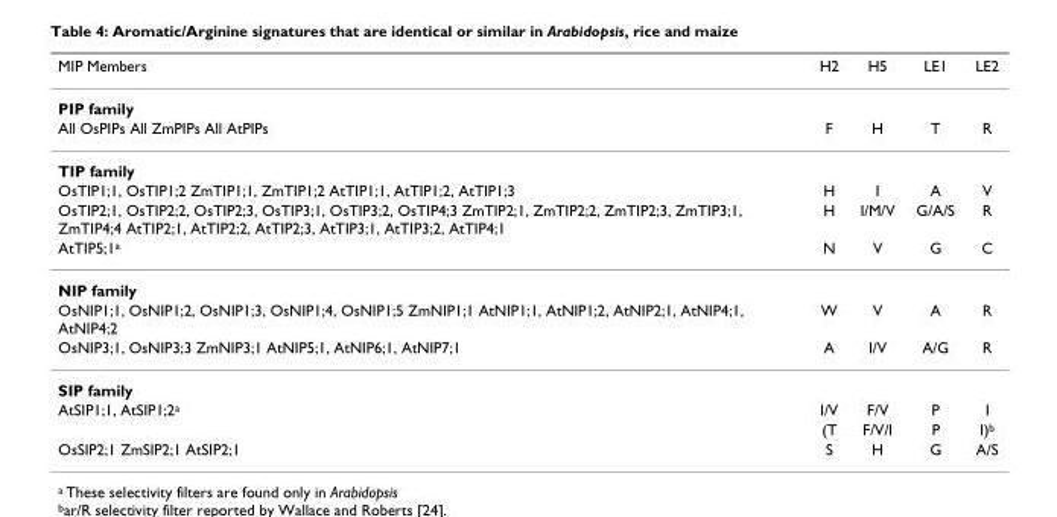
<table><thead><tr><td>MIP Members</td><td>H2</td><td>H5</td><td>LE1</td><td>LE2</td></tr></thead><tbody><tr><td colspan="5">PIP family</td></tr><tr><td>All OsPIPs All ZmPIPs All AtPIPs</td><td>F</td><td>H</td><td>T</td><td>R</td></tr><tr><td colspan="5">TIP family</td></tr><tr><td>OsTIP1;1, OsTIP1;2 ZmTIP1;1, ZmTIP1;2 AtTIP1;1, AtTIP1;2, AtTIP1;3</td><td>H</td><td>I</td><td>A</td><td>V</td></tr><tr><td>OsTIP2;1, OsTIP2;2, OsTIP2;3, OsTIP3;1, OsTIP3;2, OsTIP4;3 ZmTIP2;1, ZmTIP2;2, ZmTIP2;3, ZmTIP3;1, ZmTIP4;4 AtTIP2;1, AtTIP2;2, AtTIP2;3, AtTIP3;1, AtTIP3;2, AtTIP4;1</td><td>H</td><td>I/M/V</td><td>G/A/S</td><td>R</td></tr><tr><td>AtTIP5;1a</td><td>N</td><td>V</td><td>G</td><td>C</td></tr><tr><td colspan="5">NIP family</td></tr><tr><td>OsNIP1;1, OsNIP1;2, OsNIP1;3, OsNIP1;4, OsNIP1;5 ZmNIP1;1 AtNIP1;1, AtNIP1;2, AtNIP2;1, AtNIP4;1, AtNIP4;2</td><td>W</td><td>V</td><td>A</td><td>R</td></tr><tr><td>OsNIP3;1, OsNIP3;3 ZmNIP3;1 AtNIP5;1, AtNIP6;1, AtNIP7;1</td><td>A</td><td>I/V</td><td>A/G</td><td>R</td></tr><tr><td colspan="5">SIP family</td></tr><tr><td rowspan="2">AtSIP1;1, AtSIP1;2a</td><td>I/V</td><td>F/V</td><td>P</td><td>I</td></tr><tr><td>(T</td><td>F/V/I</td><td>P</td><td>I)b</td></tr><tr><td>OsSIP2;1 ZmSIP2;1 AtSIP2;1</td><td>S</td><td>H</td><td>G</td><td>A/S</td></tr></tbody></table>